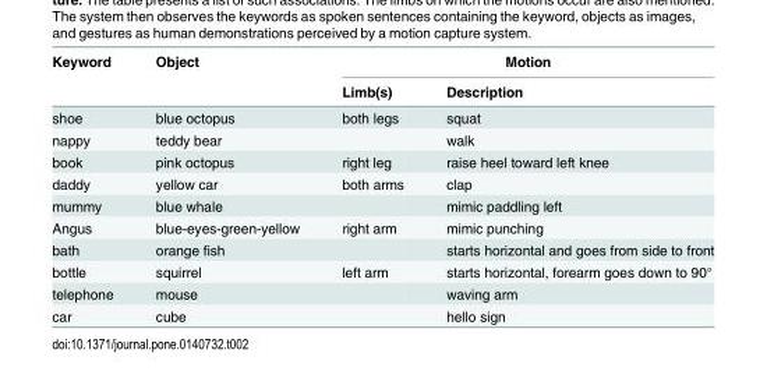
<table><thead><tr><td rowspan="2">Keyword</td><td rowspan="2">Object</td><td colspan="2">Motion</td></tr><tr><td>Limb(s)</td><td>Description</td></tr></thead><tbody><tr><td>shoe</td><td>blue octopus</td><td>both legs</td><td>squat</td></tr><tr><td>nappy</td><td>teddy bear</td><td></td><td>walk</td></tr><tr><td>book</td><td>pink octopus</td><td>right leg</td><td>raise heel toward left knee</td></tr><tr><td>daddy</td><td>yellow car</td><td>both arms</td><td>clap</td></tr><tr><td>mummy</td><td>blue whale</td><td></td><td>mimic paddling left</td></tr><tr><td>Angus</td><td>blue-eyes-green-yellow</td><td>right arm</td><td>mimic punching</td></tr><tr><td>bath</td><td>orange fish</td><td></td><td>starts horizontal and goes from side to front</td></tr><tr><td>bottle</td><td>squirrel</td><td>left arm</td><td>starts horizontal, forearm goes down to 90°</td></tr><tr><td>telephone</td><td>mouse</td><td></td><td>waving arm</td></tr><tr><td>car</td><td>cube</td><td></td><td>hello sign</td></tr></tbody></table>